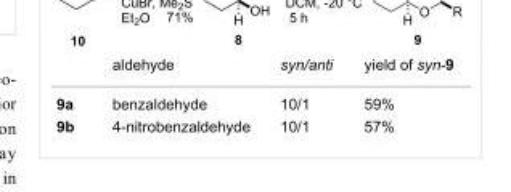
<table><thead><tr><td></td><td>aldehyde</td><td>syn/anti</td><td>yield of syn-9</td></tr></thead><tbody><tr><td>9a</td><td>benzaldehyde</td><td>10/1</td><td>59%</td></tr><tr><td>9b</td><td>4-nitrobenzaldehyde</td><td>10/1</td><td>57%</td></tr></tbody></table>